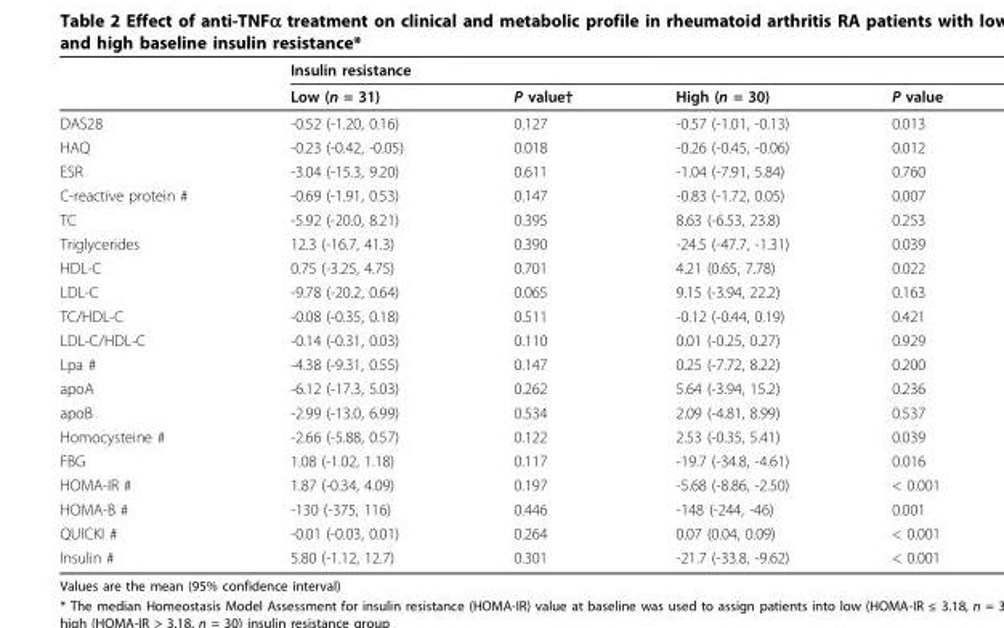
<table><thead><tr><td rowspan="2"></td><td rowspan="2">Insulin resistance Low (n = 31)</td><td rowspan="2">P value†</td><td rowspan="2">High (n = 30)</td><td rowspan="2">P value</td></tr><tr></tr></thead><tbody><tr><td>DAS28</td><td>-0.52 (-1.20, 0.16)</td><td>0.127</td><td>-0.57 (-1.01, -0.13)</td><td>0.013</td></tr><tr><td>HAQ</td><td>-0.23 (-0.42, -0.05)</td><td>0.018</td><td>-0.26 (-0.45, -0.06)</td><td>0.012</td></tr><tr><td>ESR</td><td>-3.04 (-15.3, 9.20)</td><td>0.611</td><td>-1.04 (-7.91, 5.84)</td><td>0.760</td></tr><tr><td>C-reactive protein #</td><td>-0.69 (-1.91, 0.53)</td><td>0.147</td><td>-0.83 (-1.72, 0.05)</td><td>0.007</td></tr><tr><td>TC</td><td>-5.92 (-20.0, 8.21)</td><td>0.395</td><td>8.63 (-6.53, 23.8)</td><td>0.253</td></tr><tr><td>Triglycerides</td><td>12.3 (-16.7, 41.3)</td><td>0.390</td><td>-24.5 (-47.7, -1.31)</td><td>0.039</td></tr><tr><td>HDL-C</td><td>0.75 (-3.25, 4.75)</td><td>0.701</td><td>4.21 (0.65, 7.78)</td><td>0.022</td></tr><tr><td>LDL-C</td><td>-9.78 (-20.2, 0.64)</td><td>0.065</td><td>9.15 (-3.94, 22.2)</td><td>0.163</td></tr><tr><td>TC/HDL-C</td><td>-0.08 (-0.35, 0.18)</td><td>0.511</td><td>-0.12 (-0.44, 0.19)</td><td>0.421</td></tr><tr><td>LDL-C/HDL-C</td><td>-0.14 (-0.31, 0.03)</td><td>0.110</td><td>0.01 (-0.25, 0.27)</td><td>0.929</td></tr><tr><td>Lpa #</td><td>-4.38 (-9.31, 0.55)</td><td>0.147</td><td>0.25 (-7.72, 8.22)</td><td>0.200</td></tr><tr><td>apoA</td><td>-6.12 (-17.3, 5.03)</td><td>0.262</td><td>5.64 (-3.94, 15.2)</td><td>0.236</td></tr><tr><td>apoB</td><td>-2.99 (-13.0, 6.99)</td><td>0.534</td><td>2.09 (-4.81, 8.99)</td><td>0.537</td></tr><tr><td>Homocysteine #</td><td>-2.66 (-5.88, 0.57)</td><td>0.122</td><td>2.53 (-0.35, 5.41)</td><td>0.039</td></tr><tr><td>FBG</td><td>1.08 (-1.02, 1.18)</td><td>0.117</td><td>-19.7 (-34.8, -4.61)</td><td>0.016</td></tr><tr><td>HOMA-IR #</td><td>1.87 (-0.34, 4.09)</td><td>0.197</td><td>-5.68 (-8.86, -2.50)</td><td>&lt; 0.001</td></tr><tr><td>HOMA-B #</td><td>-130 (-375, 116)</td><td>0.446</td><td>-148 (-244, -46)</td><td>0.001</td></tr><tr><td>QUICKI #</td><td>-0.01 (-0.03, 0.01)</td><td>0.264</td><td>0.07 (0.04, 0.09)</td><td>&lt; 0.001</td></tr><tr><td>Insulin #</td><td>5.80 (-1.12, 12.7)</td><td>0.301</td><td>-21.7 (-33.8, -9.62)</td><td>&lt; 0.001</td></tr></tbody></table>